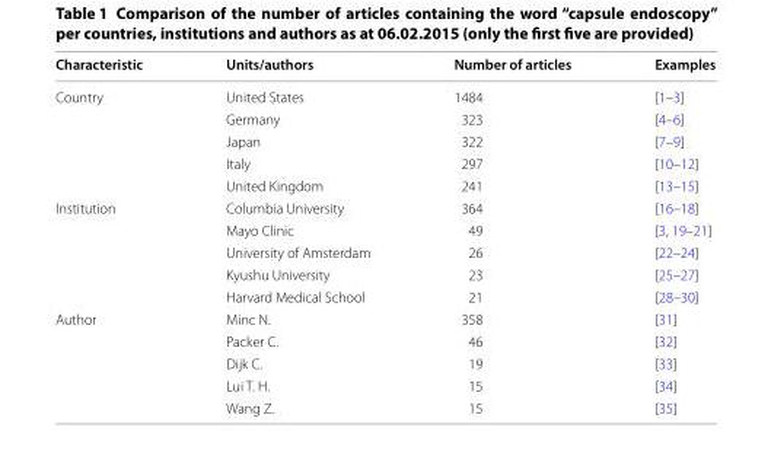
<table><thead><tr><td>Characteristic</td><td>Units/authors</td><td>Number of articles</td><td>Examples</td></tr></thead><tbody><tr><td rowspan="5">Country</td><td>United States</td><td>1484</td><td>[1–3]</td></tr><tr><td>Germany</td><td>323</td><td>[4–6]</td></tr><tr><td>Japan</td><td>322</td><td>[7–9]</td></tr><tr><td>Italy</td><td>297</td><td>[10–12]</td></tr><tr><td>United Kingdom</td><td>241</td><td>[13–15]</td></tr><tr><td rowspan="5">Institution</td><td>Columbia University</td><td>364</td><td>[16–18]</td></tr><tr><td>Mayo Clinic</td><td>49</td><td>[3, 19–21]</td></tr><tr><td>University of Amsterdam</td><td>26</td><td>[22–24]</td></tr><tr><td>Kyushu University</td><td>23</td><td>[25–27]</td></tr><tr><td>Harvard Medical School</td><td>21</td><td>[28–30]</td></tr><tr><td rowspan="5">Author</td><td>Minc N.</td><td>358</td><td>[31]</td></tr><tr><td>Packer C.</td><td>46</td><td>[32]</td></tr><tr><td>Dijk C.</td><td>19</td><td>[33]</td></tr><tr><td>Lui T. H.</td><td>15</td><td>[34]</td></tr><tr><td>Wang Z.</td><td>15</td><td>[35]</td></tr></tbody></table>